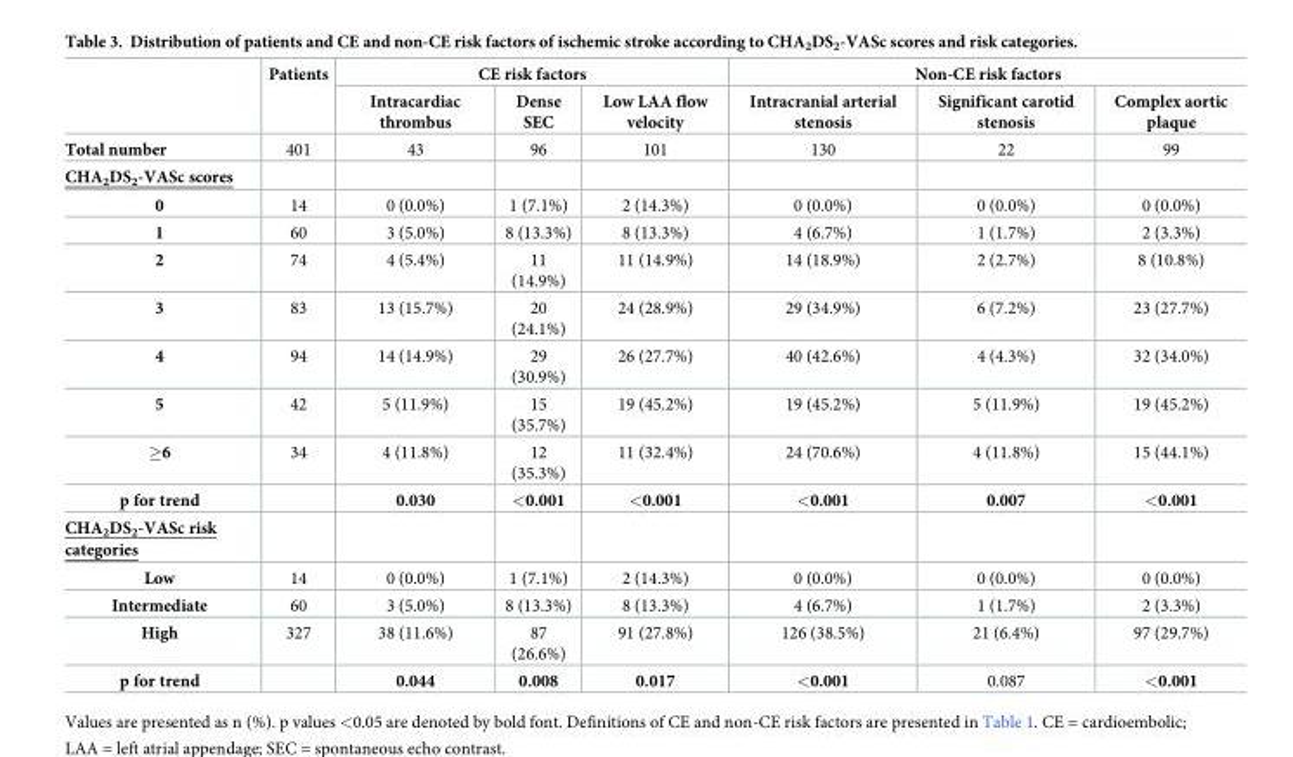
<table><thead><tr><td rowspan="2"></td><td rowspan="2">Patients</td><td colspan="3">CE risk factors</td><td colspan="3">Non-CE risk factors</td></tr><tr><td>Intracardiac thrombus</td><td>Dense SEC</td><td>Low LAA flow velocity</td><td>Intracranial arterial stenosis</td><td>Significant carotid stenosis</td><td>Complex aortic plaque</td></tr></thead><tbody><tr><td>Total number</td><td>401</td><td>43</td><td>96</td><td>101</td><td>130</td><td>22</td><td>99</td></tr><tr><td colspan="8">CHA<sub>2</sub>DS<sub>2</sub>-VASc scores</td></tr><tr><td>0</td><td>14</td><td>0 (0.0%)</td><td>1 (7.1%)</td><td>2 (14.3%)</td><td>0 (0.0%)</td><td>0 (0.0%)</td><td>0 (0.0%)</td></tr><tr><td>1</td><td>60</td><td>3 (5.0%)</td><td>8 (13.3%)</td><td>8 (13.3%)</td><td>4 (6.7%)</td><td>1 (1.7%)</td><td>2 (3.3%)</td></tr><tr><td>2</td><td>74</td><td>4 (5.4%)</td><td>11 (14.9%)</td><td>11 (14.9%)</td><td>14 (18.9%)</td><td>2 (2.7%)</td><td>8 (10.8%)</td></tr><tr><td>3</td><td>83</td><td>13 (15.7%)</td><td>20 (24.1%)</td><td>24 (28.9%)</td><td>29 (34.9%)</td><td>6 (7.2%)</td><td>23 (27.7%)</td></tr><tr><td>4</td><td>94</td><td>14 (14.9%)</td><td>29 (30.9%)</td><td>26 (27.7%)</td><td>40 (42.6%)</td><td>4 (4.3%)</td><td>32 (34.0%)</td></tr><tr><td>5</td><td>42</td><td>5 (11.9%)</td><td>15 (35.7%)</td><td>19 (45.2%)</td><td>19 (45.2%)</td><td>5 (11.9%)</td><td>19 (45.2%)</td></tr><tr><td>≥6</td><td>34</td><td>4 (11.8%)</td><td>12 (35.3%)</td><td>11 (32.4%)</td><td>24 (70.6%)</td><td>4 (11.8%)</td><td>15 (44.1%)</td></tr><tr><td>p for trend</td><td></td><td>0.030</td><td>&lt;0.001</td><td>&lt;0.001</td><td>&lt;0.001</td><td>0.007</td><td>&lt;0.001</td></tr><tr><td colspan="8">CHA<sub>2</sub>DS<sub>2</sub>-VASc risk categories</td></tr><tr><td>Low</td><td>14</td><td>0 (0.0%)</td><td>1 (7.1%)</td><td>2 (14.3%)</td><td>0 (0.0%)</td><td>0 (0.0%)</td><td>0 (0.0%)</td></tr><tr><td>Intermediate</td><td>60</td><td>3 (5.0%)</td><td>8 (13.3%)</td><td>8 (13.3%)</td><td>4 (6.7%)</td><td>1 (1.7%)</td><td>2 (3.3%)</td></tr><tr><td>High</td><td>327</td><td>38 (11.6%)</td><td>87 (26.6%)</td><td>91 (27.8%)</td><td>126 (38.5%)</td><td>21 (6.4%)</td><td>97 (29.7%)</td></tr><tr><td>p for trend</td><td></td><td>0.044</td><td>0.008</td><td>0.017</td><td>&lt;0.001</td><td>0.087</td><td>&lt;0.001</td></tr></tbody></table>